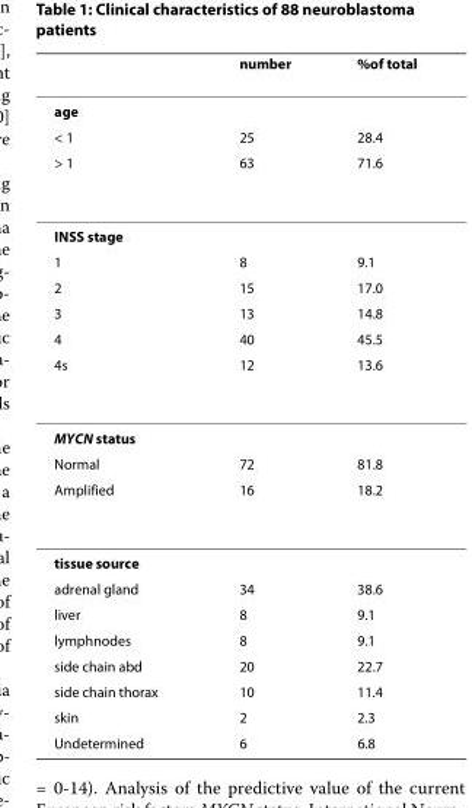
<table><thead><tr><td></td><td>number</td><td>%of total</td></tr></thead><tbody><tr><td colspan="3">age</td></tr><tr><td>&lt; 1</td><td>25</td><td>28.4</td></tr><tr><td>&gt; 1</td><td>63</td><td>71.6</td></tr><tr><td colspan="3">INSS stage</td></tr><tr><td>1</td><td>8</td><td>9.1</td></tr><tr><td>2</td><td>15</td><td>17.0</td></tr><tr><td>3</td><td>13</td><td>14.8</td></tr><tr><td>4</td><td>40</td><td>45.5</td></tr><tr><td>4s</td><td>12</td><td>13.6</td></tr><tr><td colspan="3">MYCN status</td></tr><tr><td>Normal</td><td>72</td><td>81.8</td></tr><tr><td>Amplified</td><td>16</td><td>18.2</td></tr><tr><td colspan="3">tissue source</td></tr><tr><td>adrenal gland</td><td>34</td><td>38.6</td></tr><tr><td>liver</td><td>8</td><td>9.1</td></tr><tr><td>lymphnodes</td><td>8</td><td>9.1</td></tr><tr><td>side chain abd</td><td>20</td><td>22.7</td></tr><tr><td>side chain thorax</td><td>10</td><td>11.4</td></tr><tr><td>skin</td><td>2</td><td>2.3</td></tr><tr><td>Undetermined</td><td>6</td><td>6.8</td></tr></tbody></table>